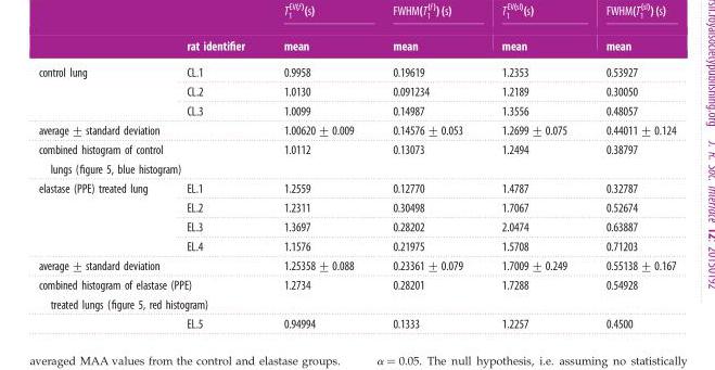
<table><thead><tr><td></td><td>rat identifier</td><td>mean</td><td>mean</td><td>mean</td><td>mean</td></tr></thead><tbody><tr><td rowspan="3">control lung</td><td>CL.1</td><td>0.9958</td><td>0.19619</td><td>1.2353</td><td>0.53927</td></tr><tr><td>CL.2</td><td>1.0130</td><td>0.091234</td><td>1.2189</td><td>0.30050</td></tr><tr><td>CL.3</td><td>1.0099</td><td>0.14987</td><td>1.3556</td><td>0.48057</td></tr><tr><td colspan="2">average+ standard deviation</td><td>1.00620 + 0.009</td><td>0.14576 + 0.053</td><td>1.2699 + 0.075</td><td>0.44011 + 0.124</td></tr><tr><td colspan="2">combined histogram of control lungs (figure 5, blue histogram)</td><td>1.0112</td><td>0.13073</td><td>1.2494</td><td>0.38797</td></tr><tr><td rowspan="4">elastase (PPE) treated lung</td><td>EL.1</td><td>1.2559</td><td>0.12770</td><td>1.4787</td><td>0.32787</td></tr><tr><td>EL.2</td><td>1.2311</td><td>0.30498</td><td>1.7067</td><td>0.52674</td></tr><tr><td>EL.3</td><td>1.3697</td><td>0.28202</td><td>2.0474</td><td>0.63887</td></tr><tr><td>EL.4</td><td>1.1576</td><td>0.21975</td><td>1.5708</td><td>0.71203</td></tr><tr><td colspan="2">average+ standard deviation</td><td>1.25358 + 0.088</td><td>0.23361 + 0.079</td><td>1.7009 + 0.249</td><td>0.55138 + 0.167</td></tr><tr><td colspan="2">combined histogram of elastase (PPE) treated lungs (figure 5, red histogram)</td><td>1.2734</td><td>0.28201</td><td>1.7288</td><td>0.54928</td></tr><tr><td></td><td>EL.5</td><td>0.94994</td><td>0.1333</td><td>1.2257</td><td>0.4500</td></tr></tbody></table>